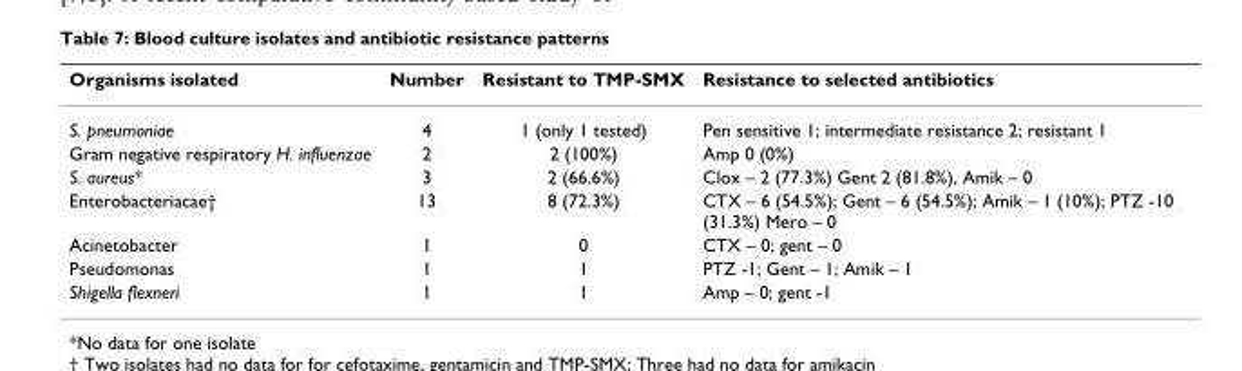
<table><thead><tr><td>Organisms isolated</td><td>Number</td><td>Resistant to TMP-SMX</td><td>Resistance to selected antibiotics</td></tr></thead><tbody><tr><td>S. pneumoniae</td><td>4</td><td>1 (only 1 tested)</td><td>Pen sensitive 1; intermediate resistance 2; resistant 1</td></tr><tr><td>Gram negative respiratory H. influenzae</td><td>2</td><td>2 (100%)</td><td>Amp 0 (0%)</td></tr><tr><td>S. aureus*</td><td>3</td><td>2 (66.6%)</td><td>Clox – 2 (77.3%) Gent 2 (81.8%), Amik – 0</td></tr><tr><td>Enterobacteriacae†</td><td>13</td><td>8 (72.3%)</td><td>CTX – 6 (54.5%); Gent – 6 (54.5%); Amik – 1 (10%); PTZ -10 (31.3%) Mero – 0</td></tr><tr><td>Acinetobacter</td><td>1</td><td>0</td><td>CTX – 0; gent – 0</td></tr><tr><td>Pseudomonas</td><td>1</td><td>1</td><td>PTZ -1; Gent – 1; Amik – 1</td></tr><tr><td>Shigella flexneri</td><td>1</td><td>1</td><td>Amp – 0; gent -1</td></tr></tbody></table>